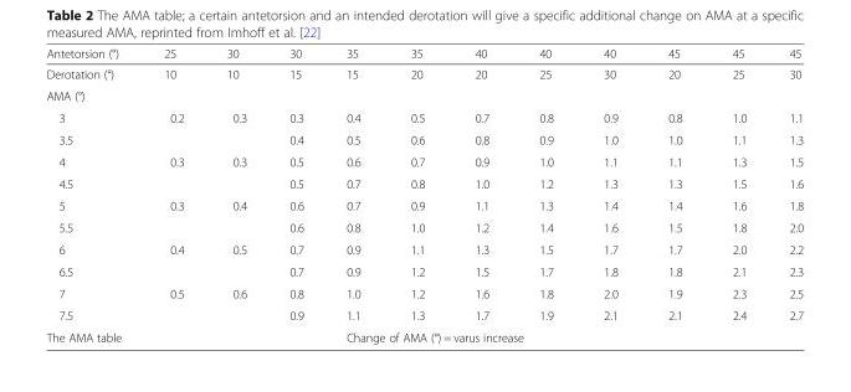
<table><thead><tr><td>Antetorsion (°)</td><td>25</td><td>30</td><td>30</td><td>35</td><td>35</td><td>40</td><td>40</td><td>40</td><td>45</td><td>45</td><td>45</td></tr></thead><tbody><tr><td>Derotation (°)</td><td>10</td><td>10</td><td>15</td><td>15</td><td>20</td><td>20</td><td>25</td><td>30</td><td>20</td><td>25</td><td>30</td></tr><tr><td colspan="12">AMA (°)</td></tr><tr><td>3</td><td>0.2</td><td>0.3</td><td>0.3</td><td>0.4</td><td>0.5</td><td>0.7</td><td>0.8</td><td>0.9</td><td>0.8</td><td>1.0</td><td>1.1</td></tr><tr><td>3.5</td><td></td><td></td><td>0.4</td><td>0.5</td><td>0.6</td><td>0.8</td><td>0.9</td><td>1.0</td><td>1.0</td><td>1.1</td><td>1.3</td></tr><tr><td>4</td><td>0.3</td><td>0.3</td><td>0.5</td><td>0.6</td><td>0.7</td><td>0.9</td><td>1.0</td><td>1.1</td><td>1.1</td><td>1.3</td><td>1.5</td></tr><tr><td>4.5</td><td></td><td></td><td>0.5</td><td>0.7</td><td>0.8</td><td>1.0</td><td>1.2</td><td>1.3</td><td>1.3</td><td>1.5</td><td>1.6</td></tr><tr><td>5</td><td>0.3</td><td>0.4</td><td>0.6</td><td>0.7</td><td>0.9</td><td>1.1</td><td>1.3</td><td>1.4</td><td>1.4</td><td>1.6</td><td>1.8</td></tr><tr><td>5.5</td><td></td><td></td><td>0.6</td><td>0.8</td><td>1.0</td><td>1.2</td><td>1.4</td><td>1.6</td><td>1.5</td><td>1.8</td><td>2.0</td></tr><tr><td>6</td><td>0.4</td><td>0.5</td><td>0.7</td><td>0.9</td><td>1.1</td><td>1.3</td><td>1.5</td><td>1.7</td><td>1.7</td><td>2.0</td><td>2.2</td></tr><tr><td>6.5</td><td></td><td></td><td>0.7</td><td>0.9</td><td>1.2</td><td>1.5</td><td>1.7</td><td>1.8</td><td>1.8</td><td>2.1</td><td>2.3</td></tr><tr><td>7</td><td>0.5</td><td>0.6</td><td>0.8</td><td>1.0</td><td>1.2</td><td>1.6</td><td>1.8</td><td>2.0</td><td>1.9</td><td>2.3</td><td>2.5</td></tr><tr><td>7.5</td><td></td><td></td><td>0.9</td><td>1.1</td><td>1.3</td><td>1.7</td><td>1.9</td><td>2.1</td><td>2.1</td><td>2.4</td><td>2.7</td></tr><tr><td>The AMA table</td><td></td><td></td><td></td><td colspan="6">Change of AMA (°) = varus increase</td><td></td><td></td></tr></tbody></table>